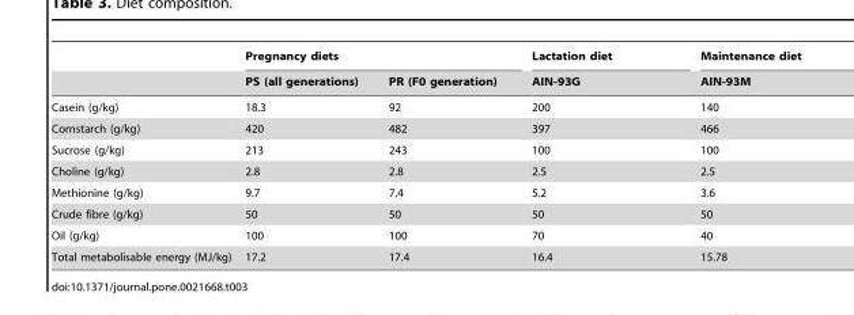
<table><thead><tr><td rowspan="2"></td><td colspan="2">Pregnancy diets</td><td rowspan="2">Lactation diet AIN-93G</td><td rowspan="2">Maintenance diet AIN-93M</td></tr><tr><td>PS (all generations)</td><td>PR (F0 generation)</td></tr></thead><tbody><tr><td>Casein (g/kg)</td><td>18.3</td><td>92</td><td>200</td><td>140</td></tr><tr><td>Cornstarch (g/kg)</td><td>420</td><td>482</td><td>397</td><td>466</td></tr><tr><td>Sucrose (g/kg)</td><td>213</td><td>243</td><td>100</td><td>100</td></tr><tr><td>Choline (g/kg)</td><td>2.8</td><td>2.8</td><td>2.5</td><td>2.5</td></tr><tr><td>Methionine (g/kg)</td><td>9.7</td><td>7.4</td><td>5.2</td><td>3.6</td></tr><tr><td>Crude fibre (g/kg)</td><td>50</td><td>50</td><td>50</td><td>50</td></tr><tr><td>Oil (g/kg)</td><td>100</td><td>100</td><td>70</td><td>40</td></tr><tr><td>Total metabolisable energy (MJ/kg)</td><td>17.2</td><td>17.4</td><td>16.4</td><td>15.78</td></tr></tbody></table>